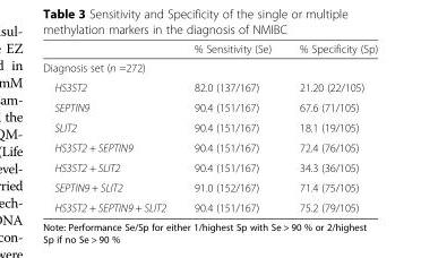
<table><thead><tr><td></td><td>% Sensitivity (Se)</td><td>% Specificity (Sp)</td></tr></thead><tbody><tr><td colspan="3">Diagnosis set (n =272)</td></tr><tr><td>HS3ST2</td><td>82.0 (137/167)</td><td>21.20 (22/105)</td></tr><tr><td>SEPTIN9</td><td>90.4 (151/167)</td><td>67.6 (71/105)</td></tr><tr><td>SLIT2</td><td>90.4 (151/167)</td><td>18.1 (19/105)</td></tr><tr><td>HS3ST2 + SEPTIN9</td><td>90.4 (151/167)</td><td>72.4 (76/105)</td></tr><tr><td>HS3ST2 + SLIT2</td><td>90.4 (151/167)</td><td>34.3 (36/105)</td></tr><tr><td>SEPTIN9 + SLIT2</td><td>91.0 (152/167)</td><td>71.4 (75/105)</td></tr><tr><td>HS3ST2 + SEPTIN9 + SLIT2</td><td>90.4 (151/167)</td><td>75.2 (79/105)</td></tr></tbody></table>